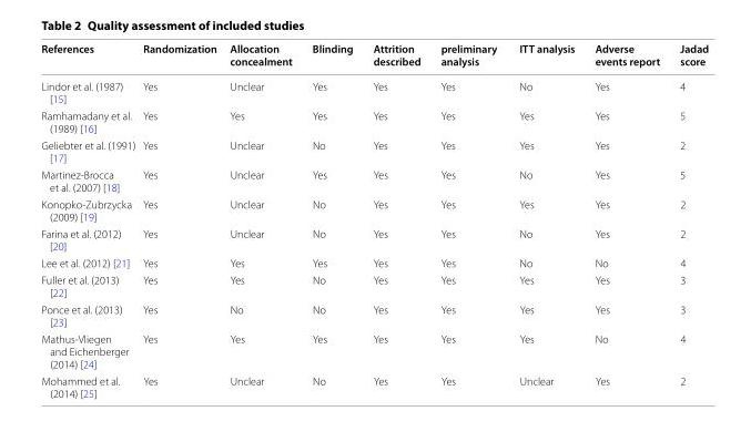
<table><thead><tr><td>References</td><td>Randomization</td><td>Allocation concealment</td><td>Blinding</td><td>Attrition described</td><td>preliminary analysis</td><td>ITT analysis</td><td>Adverse events report</td><td>Jadad score</td></tr></thead><tbody><tr><td>Lindor et al. (1987) [15]</td><td>Yes</td><td>Unclear</td><td>Yes</td><td>Yes</td><td>Yes</td><td>No</td><td>Yes</td><td>4</td></tr><tr><td>Ramhamadany et al. (1989) [16]</td><td>Yes</td><td>Yes</td><td>Yes</td><td>Yes</td><td>Yes</td><td>Yes</td><td>Yes</td><td>5</td></tr><tr><td>Geliebter et al. (1991) [17]</td><td>Yes</td><td>Unclear</td><td>No</td><td>Yes</td><td>Yes</td><td>Yes</td><td>Yes</td><td>2</td></tr><tr><td>Martinez-Brocca et al. (2007) [18]</td><td>Yes</td><td>Unclear</td><td>Yes</td><td>Yes</td><td>Yes</td><td>No</td><td>Yes</td><td>5</td></tr><tr><td>Konopko-Zubrzycka (2009) [19]</td><td>Yes</td><td>Unclear</td><td>No</td><td>Yes</td><td>Yes</td><td>Yes</td><td>Yes</td><td>2</td></tr><tr><td>Farina et al. (2012) [20]</td><td>Yes</td><td>Unclear</td><td>No</td><td>Yes</td><td>Yes</td><td>No</td><td>Yes</td><td>2</td></tr><tr><td>Lee et al. (2012) [21]</td><td>Yes</td><td>Yes</td><td>Yes</td><td>Yes</td><td>Yes</td><td>No</td><td>No</td><td>4</td></tr><tr><td>Fuller et al. (2013) [22]</td><td>Yes</td><td>Yes</td><td>No</td><td>Yes</td><td>Yes</td><td>Yes</td><td>Yes</td><td>3</td></tr><tr><td>Ponce et al. (2013) [23]</td><td>Yes</td><td>No</td><td>No</td><td>Yes</td><td>Yes</td><td>Yes</td><td>Yes</td><td>3</td></tr><tr><td>Mathus-Vliegen and Eichenberger (2014) [24]</td><td>Yes</td><td>Yes</td><td>Yes</td><td>Yes</td><td>Yes</td><td>Yes</td><td>No</td><td>4</td></tr><tr><td>Mohammed et al. (2014) [25]</td><td>Yes</td><td>Unclear</td><td>No</td><td>Yes</td><td>Yes</td><td>Unclear</td><td>Yes</td><td>2</td></tr></tbody></table>